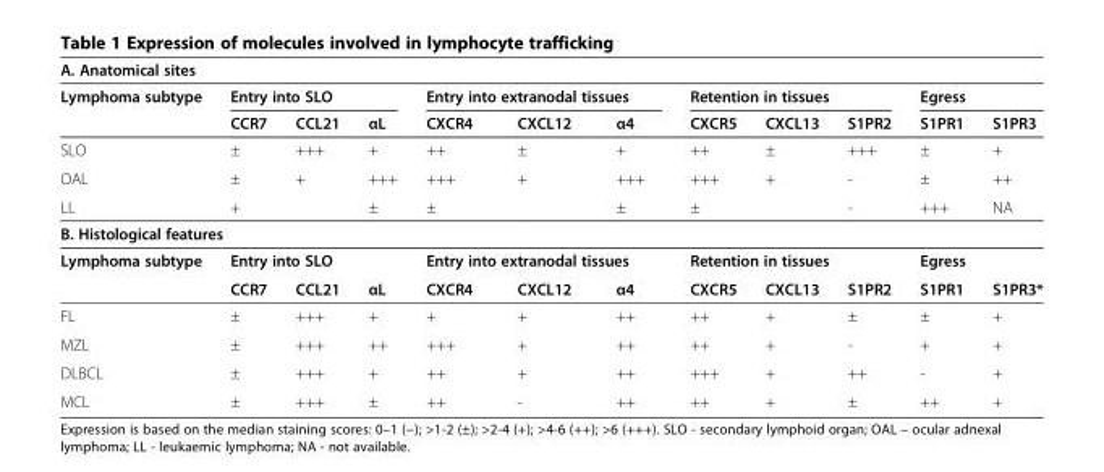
<table><thead><tr><td colspan="12">A. Anatomical sites</td></tr><tr><td rowspan="2">Lymphoma subtype</td><td colspan="3">Entry into SLO</td><td colspan="3">Entry into extranodal tissues</td><td colspan="3">Retention in tissues</td><td colspan="2">Egress</td></tr><tr><td>CCR7</td><td>CCL21</td><td>αL</td><td>CXCR4</td><td>CXCL12</td><td>α4</td><td>CXCR5</td><td>CXCL13</td><td>S1PR2</td><td>S1PR1</td><td>S1PR3</td></tr></thead><tbody><tr><td>SLO</td><td>±</td><td>+++</td><td>+</td><td>++</td><td>±</td><td>+</td><td>++</td><td>±</td><td>+++</td><td>±</td><td>+</td></tr><tr><td>OAL</td><td>±</td><td>+</td><td>+++</td><td>+++</td><td>+</td><td>+++</td><td>+++</td><td>+</td><td>-</td><td>±</td><td>++</td></tr><tr><td>LL</td><td>+</td><td></td><td>±</td><td>±</td><td></td><td>±</td><td>±</td><td></td><td>-</td><td>+++</td><td>NA</td></tr><tr><td colspan="12">B. Histological features</td></tr><tr><td rowspan="2">Lymphoma subtype</td><td colspan="3">Entry into SLO</td><td colspan="3">Entry into extranodal tissues</td><td colspan="3">Retention in tissues</td><td colspan="2">Egress</td></tr><tr><td>CCR7</td><td>CCL21</td><td>αL</td><td>CXCR4</td><td>CXCL12</td><td>α4</td><td>CXCR5</td><td>CXCL13</td><td>S1PR2</td><td>S1PR1</td><td>S1PR3*</td></tr><tr><td>FL</td><td>±</td><td>+++</td><td>+</td><td>+</td><td>+</td><td>++</td><td>++</td><td>+</td><td>±</td><td>±</td><td>+</td></tr><tr><td>MZL</td><td>±</td><td>+++</td><td>++</td><td>+++</td><td>+</td><td>++</td><td>++</td><td>+</td><td>-</td><td>+</td><td>+</td></tr><tr><td>DLBCL</td><td>±</td><td>+++</td><td>+</td><td>++</td><td>+</td><td>++</td><td>+++</td><td>+</td><td>++</td><td>-</td><td>+</td></tr><tr><td>MCL</td><td>±</td><td>+++</td><td>±</td><td>++</td><td>-</td><td>++</td><td>++</td><td>+</td><td>±</td><td>++</td><td>+</td></tr></tbody></table>